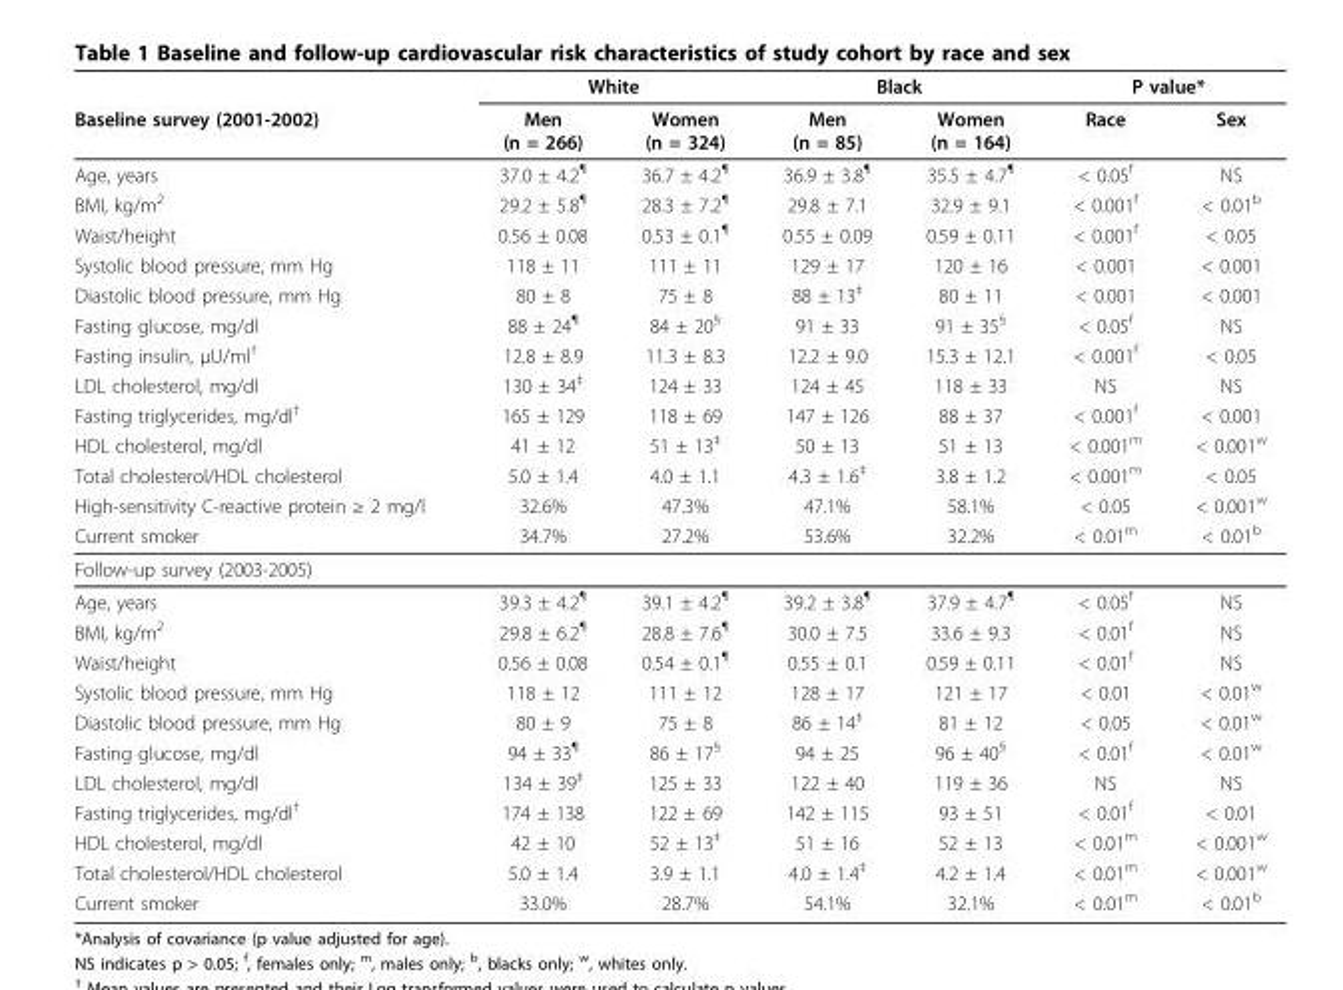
<table><thead><tr><td rowspan="2">Baseline survey (2001-2002)</td><td colspan="2">White</td><td colspan="2">Black</td><td colspan="2">P value*</td></tr><tr><td>Men (n = 266)</td><td>Women (n = 324)</td><td>Men (n = 85)</td><td>Women (n = 164)</td><td>Race</td><td>Sex</td></tr></thead><tbody><tr><td>Age, years</td><td>37.0 ± 4.2<sup>¶</sup></td><td>36.7 ± 4.2<sup>¶</sup></td><td>36.9 ± 3.8<sup>¶</sup></td><td>35.5 ± 4.7<sup>¶</sup></td><td>&lt; 0.05<sup>f</sup></td><td>NS</td></tr><tr><td>BMI, kg/m<sup>2</sup></td><td>29.2 ± 5.8<sup>¶</sup></td><td>28.3 ± 7.2<sup>¶</sup></td><td>29.8 ± 7.1</td><td>32.9 ± 9.1</td><td>&lt; 0.001<sup>f</sup></td><td>&lt; 0.01<sup>b</sup></td></tr><tr><td>Waist/height</td><td>0.56 ± 0.08</td><td>0.53 ± 0.1<sup>¶</sup></td><td>0.55 ± 0.09</td><td>0.59 ± 0.11</td><td>&lt; 0.001<sup>f</sup></td><td>&lt; 0.05</td></tr><tr><td>Systolic blood pressure, mm Hg</td><td>118 ± 11</td><td>111 ± 11</td><td>129 ± 17</td><td>120 ± 16</td><td>&lt; 0.001</td><td>&lt; 0.001</td></tr><tr><td>Diastolic blood pressure, mm Hg</td><td>80 ± 8</td><td>75 ± 8</td><td>88 ± 13<sup>‡</sup></td><td>80 ± 11</td><td>&lt; 0.001</td><td>&lt; 0.001</td></tr><tr><td>Fasting glucose, mg/dl</td><td>88 ± 24<sup>¶</sup></td><td>84 ± 20<sup>§</sup></td><td>91 ± 33</td><td>91 ± 35<sup>§</sup></td><td>&lt; 0.05<sup>f</sup></td><td>NS</td></tr><tr><td>Fasting insulin, μU/ml<sup>†</sup></td><td>12.8 ± 8.9</td><td>11.3 ± 8.3</td><td>12.2 ± 9.0</td><td>15.3 ± 12.1</td><td>&lt; 0.001<sup>f</sup></td><td>&lt; 0.05</td></tr><tr><td>LDL cholesterol, mg/dl</td><td>130 ± 34<sup>‡</sup></td><td>124 ± 33</td><td>124 ± 45</td><td>118 ± 33</td><td>NS</td><td>NS</td></tr><tr><td>Fasting triglycerides, mg/dl<sup>†</sup></td><td>165 ± 129</td><td>118 ± 69</td><td>147 ± 126</td><td>88 ± 37</td><td>&lt; 0.001<sup>f</sup></td><td>&lt; 0.001</td></tr><tr><td>HDL cholesterol, mg/dl</td><td>41 ± 12</td><td>51 ± 13<sup>‡</sup></td><td>50 ± 13</td><td>51 ± 13</td><td>&lt; 0.001<sup>m</sup></td><td>&lt; 0.001<sup>w</sup></td></tr><tr><td>Total cholesterol/HDL cholesterol</td><td>5.0 ± 1.4</td><td>4.0 ± 1.1</td><td>4.3 ± 1.6<sup>‡</sup></td><td>3.8 ± 1.2</td><td>&lt; 0.001<sup>m</sup></td><td>&lt; 0.05</td></tr><tr><td>High-sensitivity C-reactive protein ≥ 2 mg/l</td><td>32.6%</td><td>47.3%</td><td>47.1%</td><td>58.1%</td><td>&lt; 0.05</td><td>&lt; 0.001<sup>w</sup></td></tr><tr><td>Current smoker</td><td>34.7%</td><td>27.2%</td><td>53.6%</td><td>32.2%</td><td>&lt; 0.01<sup>m</sup></td><td>&lt; 0.01<sup>b</sup></td></tr><tr><td colspan="7">Follow-up survey (2003-2005)</td></tr><tr><td>Age, years</td><td>39.3 ± 4.2<sup>¶</sup></td><td>39.1 ± 4.2<sup>¶</sup></td><td>39.2 ± 3.8<sup>¶</sup></td><td>37.9 ± 4.7<sup>¶</sup></td><td>&lt; 0.05<sup>f</sup></td><td>NS</td></tr><tr><td>BMI, kg/m<sup>2</sup></td><td>29.8 ± 6.2<sup>¶</sup></td><td>28.8 ± 7.6<sup>¶</sup></td><td>30.0 ± 7.5</td><td>33.6 ± 9.3</td><td>&lt; 0.01<sup>f</sup></td><td>NS</td></tr><tr><td>Waist/height</td><td>0.56 ± 0.08</td><td>0.54 ± 0.1<sup>¶</sup></td><td>0.55 ± 0.1</td><td>0.59 ± 0.11</td><td>&lt; 0.01<sup>f</sup></td><td>NS</td></tr><tr><td>Systolic blood pressure, mm Hg</td><td>118 ± 12</td><td>111 ± 12</td><td>128 ± 17</td><td>121 ± 17</td><td>&lt; 0.01</td><td>&lt; 0.01<sup>w</sup></td></tr><tr><td>Diastolic blood pressure, mm Hg</td><td>80 ± 9</td><td>75 ± 8</td><td>86 ± 14<sup>‡</sup></td><td>81 ± 12</td><td>&lt; 0.05</td><td>&lt; 0.01<sup>w</sup></td></tr><tr><td>Fasting glucose, mg/dl</td><td>94 ± 33<sup>¶</sup></td><td>86 ± 17<sup>§</sup></td><td>94 ± 25</td><td>96 ± 40<sup>§</sup></td><td>&lt; 0.01<sup>f</sup></td><td>&lt; 0.01<sup>w</sup></td></tr><tr><td>LDL cholesterol, mg/dl</td><td>134 ± 39<sup>‡</sup></td><td>125 ± 33</td><td>122 ± 40</td><td>119 ± 36</td><td>NS</td><td>NS</td></tr><tr><td>Fasting triglycerides, mg/dl<sup>†</sup></td><td>174 ± 138</td><td>122 ± 69</td><td>142 ± 115</td><td>93 ± 51</td><td>&lt; 0.01<sup>f</sup></td><td>&lt; 0.01</td></tr><tr><td>HDL cholesterol, mg/dl</td><td>42 ± 10</td><td>52 ± 13<sup>‡</sup></td><td>51 ± 16</td><td>52 ± 13</td><td>&lt; 0.01<sup>m</sup></td><td>&lt; 0.001<sup>w</sup></td></tr><tr><td>Total cholesterol/HDL cholesterol</td><td>5.0 ± 1.4</td><td>3.9 ± 1.1</td><td>4.0 ± 1.4<sup>‡</sup></td><td>4.2 ± 1.4</td><td>&lt; 0.01<sup>m</sup></td><td>&lt; 0.001<sup>w</sup></td></tr><tr><td>Current smoker</td><td>33.0%</td><td>28.7%</td><td>54.1%</td><td>32.1%</td><td>&lt; 0.01<sup>m</sup></td><td>&lt; 0.01<sup>b</sup></td></tr></tbody></table>